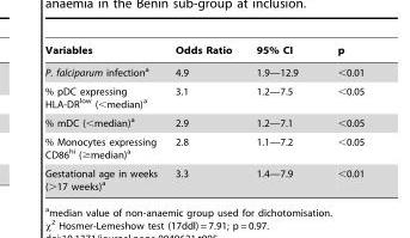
<table><thead><tr><td>Variables</td><td>Odds Ratio</td><td>95% CI</td><td>p</td></tr></thead><tbody><tr><td>P. falciparum infection<sup>a</sup></td><td>4.9</td><td>1.9—12.9</td><td>&lt;0.01</td></tr><tr><td>% pDC expressing HLA-DR<sup>low</sup> (&lt;median)<sup>a</sup></td><td>3.1</td><td>1.2—7.5</td><td>&lt;0.05</td></tr><tr><td>% mDC (&lt;median)<sup>a</sup></td><td>2.9</td><td>1.2—7.1</td><td>&lt;0.05</td></tr><tr><td>% Monocytes expressing CD86<sup>hi</sup> (≥median)<sup>a</sup></td><td>2.8</td><td>1.1—7.2</td><td>&lt;0.05</td></tr><tr><td>Gestational age in weeks (&gt;17 weeks)<sup>a</sup></td><td>3.3</td><td>1.4—7.9</td><td>&lt;0.01</td></tr></tbody></table>